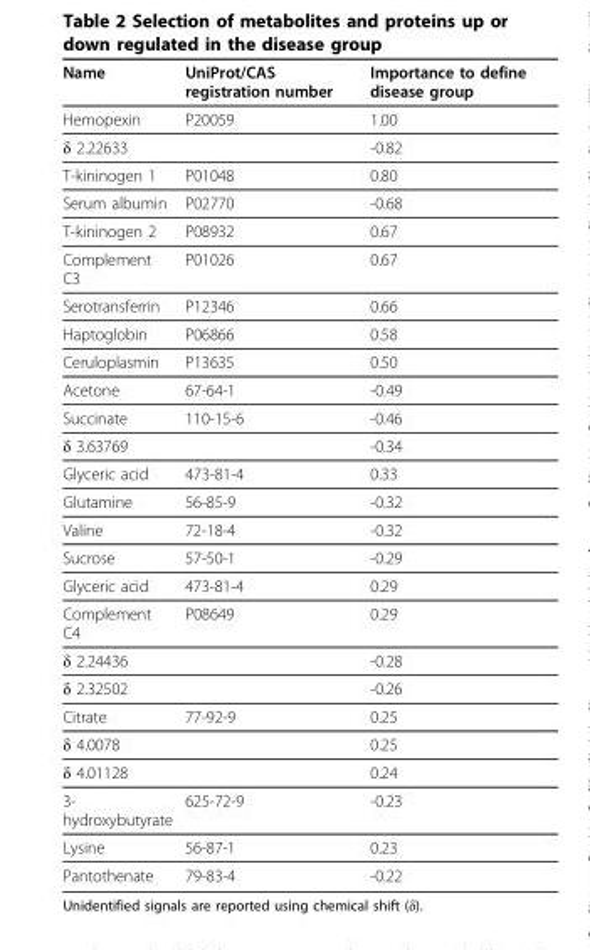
<table><thead><tr><td>Name</td><td>UniProt/CAS registration number</td><td>Importance to define disease group</td></tr></thead><tbody><tr><td>Hemopexin</td><td>P20059</td><td>1.00</td></tr><tr><td>δ 2.22633</td><td></td><td>-0.82</td></tr><tr><td>T-kininogen 1</td><td>P01048</td><td>0.80</td></tr><tr><td>Serum albumin</td><td>P02770</td><td>-0.68</td></tr><tr><td>T-kininogen 2</td><td>P08932</td><td>0.67</td></tr><tr><td>Complement C3</td><td>P01026</td><td>0.67</td></tr><tr><td>Serotransferrin</td><td>P12346</td><td>0.66</td></tr><tr><td>Haptoglobin</td><td>P06866</td><td>0.58</td></tr><tr><td>Ceruloplasmin</td><td>P13635</td><td>0.50</td></tr><tr><td>Acetone</td><td>67-64-1</td><td>-0.49</td></tr><tr><td>Succinate</td><td>110-15-6</td><td>-0.46</td></tr><tr><td>δ 3.63769</td><td></td><td>-0.34</td></tr><tr><td>Glyceric acid</td><td>473-81-4</td><td>0.33</td></tr><tr><td>Glutamine</td><td>56-85-9</td><td>-0.32</td></tr><tr><td>Valine</td><td>72-18-4</td><td>-0.32</td></tr><tr><td>Sucrose</td><td>57-50-1</td><td>-0.29</td></tr><tr><td>Glyceric acid</td><td>473-81-4</td><td>0.29</td></tr><tr><td>Complement C4</td><td>P08649</td><td>0.29</td></tr><tr><td>δ 2.24436</td><td></td><td>-0.28</td></tr><tr><td>δ 2.32502</td><td></td><td>-0.26</td></tr><tr><td>Citrate</td><td>77-92-9</td><td>0.25</td></tr><tr><td>δ 4.0078</td><td></td><td>0.25</td></tr><tr><td>δ 4.01128</td><td></td><td>0.24</td></tr><tr><td>3- hydroxybutyrate</td><td>625-72-9</td><td>-0.23</td></tr><tr><td>Lysine</td><td>56-87-1</td><td>0.23</td></tr><tr><td>Pantothenate</td><td>79-83-4</td><td>-0.22</td></tr></tbody></table>